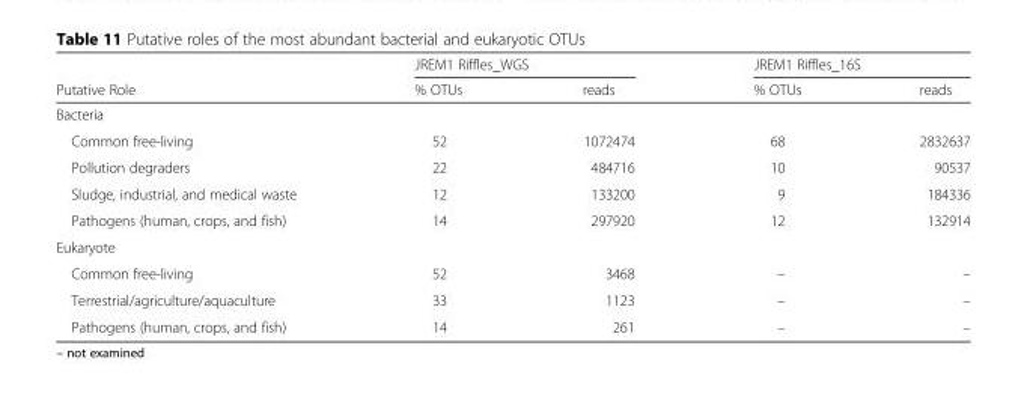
<table><thead><tr><td rowspan="2">Putative Role</td><td colspan="2">JREM1 Riffles_WGS</td><td colspan="2">JREM1 Riffles_16S</td></tr><tr><td>% OTUs</td><td>reads</td><td>% OTUs</td><td>reads</td></tr></thead><tbody><tr><td colspan="5">Bacteria</td></tr><tr><td>Common free-living</td><td>52</td><td>1072474</td><td>68</td><td>2832637</td></tr><tr><td>Pollution degraders</td><td>22</td><td>484716</td><td>10</td><td>90537</td></tr><tr><td>Sludge, industrial, and medical waste</td><td>12</td><td>133200</td><td>9</td><td>184336</td></tr><tr><td>Pathogens (human, crops, and fish)</td><td>14</td><td>297920</td><td>12</td><td>132914</td></tr><tr><td colspan="5">Eukaryote</td></tr><tr><td>Common free-living</td><td>52</td><td>3468</td><td>–</td><td>–</td></tr><tr><td>Terrestrial/agriculture/aquaculture</td><td>33</td><td>1123</td><td>–</td><td>–</td></tr><tr><td>Pathogens (human, crops, and fish)</td><td>14</td><td>261</td><td>–</td><td>–</td></tr></tbody></table>